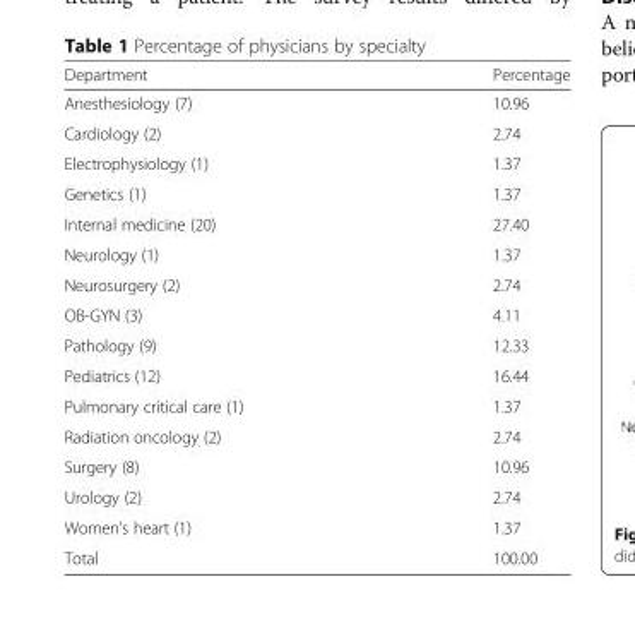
<table><thead><tr><td>Department</td><td>Percentage</td></tr></thead><tbody><tr><td>Anesthesiology (7)</td><td>10.96</td></tr><tr><td>Cardiology (2)</td><td>2.74</td></tr><tr><td>Electrophysiology (1)</td><td>1.37</td></tr><tr><td>Genetics (1)</td><td>1.37</td></tr><tr><td>Internal medicine (20)</td><td>27.40</td></tr><tr><td>Neurology (1)</td><td>1.37</td></tr><tr><td>Neurosurgery (2)</td><td>2.74</td></tr><tr><td>OB-GYN (3)</td><td>4.11</td></tr><tr><td>Pathology (9)</td><td>12.33</td></tr><tr><td>Pediatrics (12)</td><td>16.44</td></tr><tr><td>Pulmonary critical care (1)</td><td>1.37</td></tr><tr><td>Radiation oncology (2)</td><td>2.74</td></tr><tr><td>Surgery (8)</td><td>10.96</td></tr><tr><td>Urology (2)</td><td>2.74</td></tr><tr><td>Women’s heart (1)</td><td>1.37</td></tr><tr><td>Total</td><td>100.00</td></tr></tbody></table>